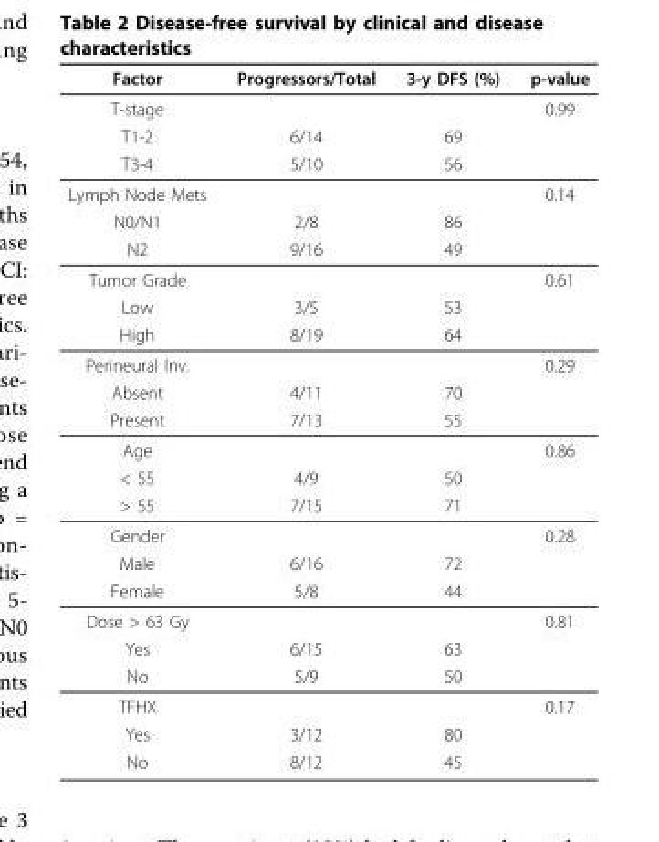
<table><thead><tr><td>Factor</td><td>Progressors/Total</td><td>3-y DFS (%)</td><td>p-value</td></tr></thead><tbody><tr><td>T-stage</td><td></td><td></td><td>0.99</td></tr><tr><td>T1-2</td><td>6/14</td><td>69</td><td></td></tr><tr><td>T3-4</td><td>5/10</td><td>56</td><td></td></tr><tr><td>Lymph Node Mets</td><td></td><td></td><td>0.14</td></tr><tr><td>N0/N1</td><td>2/8</td><td>86</td><td></td></tr><tr><td>N2</td><td>9/16</td><td>49</td><td></td></tr><tr><td>Tumor Grade</td><td></td><td></td><td>0.61</td></tr><tr><td>Low</td><td>3/5</td><td>53</td><td></td></tr><tr><td>High</td><td>8/19</td><td>64</td><td></td></tr><tr><td>Perineural Inv.</td><td></td><td></td><td>0.29</td></tr><tr><td>Absent</td><td>4/11</td><td>70</td><td></td></tr><tr><td>Present</td><td>7/13</td><td>55</td><td></td></tr><tr><td>Age</td><td></td><td></td><td>0.86</td></tr><tr><td>&lt; 55</td><td>4/9</td><td>50</td><td></td></tr><tr><td>&gt; 55</td><td>7/15</td><td>71</td><td></td></tr><tr><td>Gender</td><td></td><td></td><td>0.28</td></tr><tr><td>Male</td><td>6/16</td><td>72</td><td></td></tr><tr><td>Female</td><td>5/8</td><td>44</td><td></td></tr><tr><td>Dose &gt; 63 Gy</td><td></td><td></td><td>0.81</td></tr><tr><td>Yes</td><td>6/15</td><td>63</td><td></td></tr><tr><td>No</td><td>5/9</td><td>50</td><td></td></tr><tr><td>TFHX</td><td></td><td></td><td>0.17</td></tr><tr><td>Yes</td><td>3/12</td><td>80</td><td></td></tr><tr><td>No</td><td>8/12</td><td>45</td><td></td></tr></tbody></table>